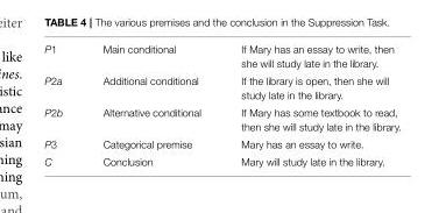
<table><tbody><tr><td>P1</td><td>Main conditional</td><td>If Mary has an essay to write, then she will study late in the library.</td></tr><tr><td>P2a</td><td>Additional conditional</td><td>If the library is open, then she will study late in the library.</td></tr><tr><td>P2b</td><td>Alternative conditional</td><td>If Mary has some textbook to read, then she will study late in the library.</td></tr><tr><td>P3</td><td>Categorical premise</td><td>Mary has an essay to write.</td></tr><tr><td>C</td><td>Conclusion</td><td>Mary will study late in the library.</td></tr></tbody></table>